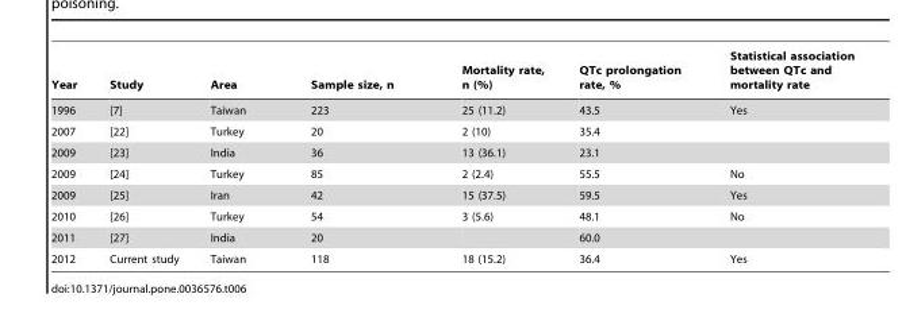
<table><thead><tr><td>Year</td><td>Study</td><td>Area</td><td>Sample size, n</td><td>Mortality rate, n (%)</td><td>QTc prolongation rate, %</td><td>Statistical association between QTc and mortality rate</td></tr></thead><tbody><tr><td>1996</td><td>[7]</td><td>Taiwan</td><td>223</td><td>25 (11.2)</td><td>43.5</td><td>Yes</td></tr><tr><td>2007</td><td>[22]</td><td>Turkey</td><td>20</td><td>2 (10)</td><td>35.4</td><td></td></tr><tr><td>2009</td><td>[23]</td><td>India</td><td>36</td><td>13 (36.1)</td><td>23.1</td><td></td></tr><tr><td>2009</td><td>[24]</td><td>Turkey</td><td>85</td><td>2 (2.4)</td><td>55.5</td><td>No</td></tr><tr><td>2009</td><td>[25]</td><td>Iran</td><td>42</td><td>15 (37.5)</td><td>59.5</td><td>Yes</td></tr><tr><td>2010</td><td>[26]</td><td>Turkey</td><td>54</td><td>3 (5.6)</td><td>48.1</td><td>No</td></tr><tr><td>2011</td><td>[27]</td><td>India</td><td>20</td><td></td><td>60.0</td><td></td></tr><tr><td>2012</td><td>Current study</td><td>Taiwan</td><td>118</td><td>18 (15.2)</td><td>36.4</td><td>Yes</td></tr></tbody></table>